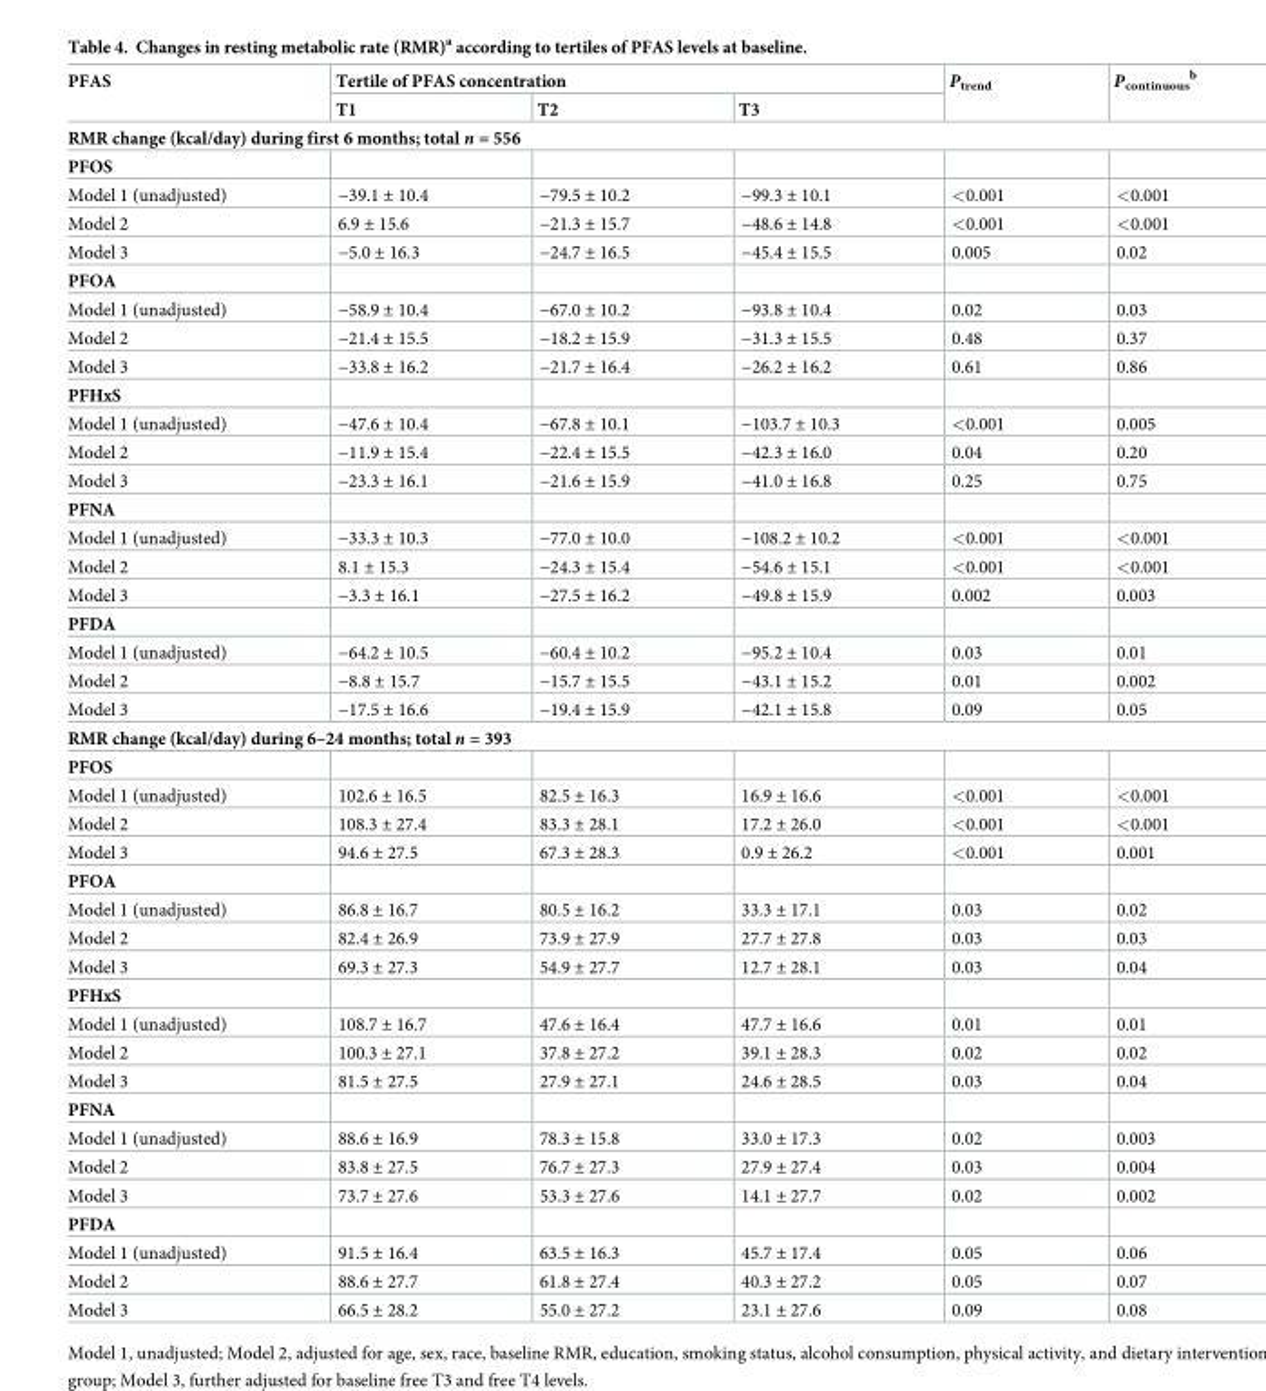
<table><thead><tr><td rowspan="2">PFAS</td><td colspan="3">Tertile of PFAS concentration</td><td rowspan="2">P<sub>trend</sub></td><td rowspan="2">P<sub>continuous</sub> <sup>b</sup></td></tr><tr><td>T1</td><td>T2</td><td>T3</td></tr></thead><tbody><tr><td colspan="6">RMR change (kcal/day) during first 6 months; total n = 556</td></tr><tr><td colspan="6">PFOS</td></tr><tr><td>Model 1 (unadjusted)</td><td>−39.1 ± 10.4</td><td>−79.5 ± 10.2</td><td>−99.3 ± 10.1</td><td>&lt;0.001</td><td>&lt;0.001</td></tr><tr><td>Model 2</td><td>6.9 ± 15.6</td><td>−21.3 ± 15.7</td><td>−48.6 ± 14.8</td><td>&lt;0.001</td><td>&lt;0.001</td></tr><tr><td>Model 3</td><td>−5.0 ± 16.3</td><td>−24.7 ± 16.5</td><td>−45.4 ± 15.5</td><td>0.005</td><td>0.02</td></tr><tr><td colspan="6">PFOA</td></tr><tr><td>Model 1 (unadjusted)</td><td>−58.9 ± 10.4</td><td>−67.0 ± 10.2</td><td>−93.8 ± 10.4</td><td>0.02</td><td>0.03</td></tr><tr><td>Model 2</td><td>−21.4 ± 15.5</td><td>−18.2 ± 15.9</td><td>−31.3 ± 15.5</td><td>0.48</td><td>0.37</td></tr><tr><td>Model 3</td><td>−33.8 ± 16.2</td><td>−21.7 ± 16.4</td><td>−26.2 ± 16.2</td><td>0.61</td><td>0.86</td></tr><tr><td colspan="6">PFHxS</td></tr><tr><td>Model 1 (unadjusted)</td><td>−47.6 ± 10.4</td><td>−67.8 ± 10.1</td><td>−103.7 ± 10.3</td><td>&lt;0.001</td><td>0.005</td></tr><tr><td>Model 2</td><td>−11.9 ± 15.4</td><td>−22.4 ± 15.5</td><td>−42.3 ± 16.0</td><td>0.04</td><td>0.20</td></tr><tr><td>Model 3</td><td>−23.3 ± 16.1</td><td>−21.6 ± 15.9</td><td>−41.0 ± 16.8</td><td>0.25</td><td>0.75</td></tr><tr><td colspan="6">PFNA</td></tr><tr><td>Model 1 (unadjusted)</td><td>−33.3 ± 10.3</td><td>−77.0 ± 10.0</td><td>−108.2 ± 10.2</td><td>&lt;0.001</td><td>&lt;0.001</td></tr><tr><td>Model 2</td><td>8.1 ± 15.3</td><td>−24.3 ± 15.4</td><td>−54.6 ± 15.1</td><td>&lt;0.001</td><td>&lt;0.001</td></tr><tr><td>Model 3</td><td>−3.3 ± 16.1</td><td>−27.5 ± 16.2</td><td>−49.8 ± 15.9</td><td>0.002</td><td>0.003</td></tr><tr><td colspan="6">PFDA</td></tr><tr><td>Model 1 (unadjusted)</td><td>−64.2 ± 10.5</td><td>−60.4 ± 10.2</td><td>−95.2 ± 10.4</td><td>0.03</td><td>0.01</td></tr><tr><td>Model 2</td><td>−8.8 ± 15.7</td><td>−15.7 ± 15.5</td><td>−43.1 ± 15.2</td><td>0.01</td><td>0.002</td></tr><tr><td>Model 3</td><td>−17.5 ± 16.6</td><td>−19.4 ± 15.9</td><td>−42.1 ± 15.8</td><td>0.09</td><td>0.05</td></tr><tr><td colspan="6">RMR change (kcal/day) during 6–24 months; total n = 393</td></tr><tr><td colspan="6">PFOS</td></tr><tr><td>Model 1 (unadjusted)</td><td>102.6 ± 16.5</td><td>82.5 ± 16.3</td><td>16.9 ± 16.6</td><td>&lt;0.001</td><td>&lt;0.001</td></tr><tr><td>Model 2</td><td>108.3 ± 27.4</td><td>83.3 ± 28.1</td><td>17.2 ± 26.0</td><td>&lt;0.001</td><td>&lt;0.001</td></tr><tr><td>Model 3</td><td>94.6 ± 27.5</td><td>67.3 ± 28.3</td><td>0.9 ± 26.2</td><td>&lt;0.001</td><td>0.001</td></tr><tr><td colspan="6">PFOA</td></tr><tr><td>Model 1 (unadjusted)</td><td>86.8 ± 16.7</td><td>80.5 ± 16.2</td><td>33.3 ± 17.1</td><td>0.03</td><td>0.02</td></tr><tr><td>Model 2</td><td>82.4 ± 26.9</td><td>73.9 ± 27.9</td><td>27.7 ± 27.8</td><td>0.03</td><td>0.03</td></tr><tr><td>Model 3</td><td>69.3 ± 27.3</td><td>54.9 ± 27.7</td><td>12.7 ± 28.1</td><td>0.03</td><td>0.04</td></tr><tr><td colspan="6">PFHxS</td></tr><tr><td>Model 1 (unadjusted)</td><td>108.7 ± 16.7</td><td>47.6 ± 16.4</td><td>47.7 ± 16.6</td><td>0.01</td><td>0.01</td></tr><tr><td>Model 2</td><td>100.3 ± 27.1</td><td>37.8 ± 27.2</td><td>39.1 ± 28.3</td><td>0.02</td><td>0.02</td></tr><tr><td>Model 3</td><td>81.5 ± 27.5</td><td>27.9 ± 27.1</td><td>24.6 ± 28.5</td><td>0.03</td><td>0.04</td></tr><tr><td colspan="6">PFNA</td></tr><tr><td>Model 1 (unadjusted)</td><td>88.6 ± 16.9</td><td>78.3 ± 15.8</td><td>33.0 ± 17.3</td><td>0.02</td><td>0.003</td></tr><tr><td>Model 2</td><td>83.8 ± 27.5</td><td>76.7 ± 27.3</td><td>27.9 ± 27.4</td><td>0.03</td><td>0.004</td></tr><tr><td>Model 3</td><td>73.7 ± 27.6</td><td>53.3 ± 27.6</td><td>14.1 ± 27.7</td><td>0.02</td><td>0.002</td></tr><tr><td colspan="6">PFDA</td></tr><tr><td>Model 1 (unadjusted)</td><td>91.5 ± 16.4</td><td>63.5 ± 16.3</td><td>45.7 ± 17.4</td><td>0.05</td><td>0.06</td></tr><tr><td>Model 2</td><td>88.6 ± 27.7</td><td>61.8 ± 27.4</td><td>40.3 ± 27.2</td><td>0.05</td><td>0.07</td></tr><tr><td>Model 3</td><td>66.5 ± 28.2</td><td>55.0 ± 27.2</td><td>23.1 ± 27.6</td><td>0.09</td><td>0.08</td></tr></tbody></table>